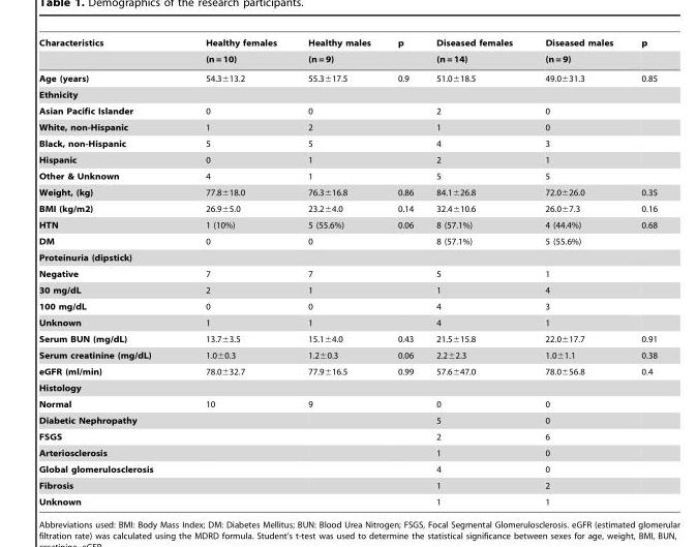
<table><thead><tr><td rowspan="2">Characteristics</td><td rowspan="2">Healthy females (n = 10)</td><td rowspan="2">Healthy males (n = 9)</td><td rowspan="2">p</td><td rowspan="2">Diseased females (n = 14)</td><td rowspan="2">Diseased males (n = 9)</td><td rowspan="2">p</td></tr><tr></tr></thead><tbody><tr><td>Age (years)</td><td>54.3±13.2</td><td>55.3±17.5</td><td>0.9</td><td>51.0±18.5</td><td>49.0±31.3</td><td>0.85</td></tr><tr><td colspan="7">Ethnicity</td></tr><tr><td>Asian Pacific Islander</td><td>0</td><td>0</td><td></td><td>2</td><td>0</td><td></td></tr><tr><td>White, non-Hispanic</td><td>1</td><td>2</td><td></td><td>1</td><td>0</td><td></td></tr><tr><td>Black, non-Hispanic</td><td>5</td><td>5</td><td></td><td>4</td><td>3</td><td></td></tr><tr><td>Hispanic</td><td>0</td><td>1</td><td></td><td>2</td><td>1</td><td></td></tr><tr><td>Other &amp; Unknown</td><td>4</td><td>1</td><td></td><td>5</td><td>5</td><td></td></tr><tr><td>Weight, (kg)</td><td>77.8±18.0</td><td>76.3±16.8</td><td>0.86</td><td>84.1±26.8</td><td>72.0±26.0</td><td>0.35</td></tr><tr><td>BMI (kg/m2)</td><td>26.9±5.0</td><td>23.2±4.0</td><td>0.14</td><td>32.4±10.6</td><td>26.0±7.3</td><td>0.16</td></tr><tr><td>HTN</td><td>1 (10%)</td><td>5 (55.6%)</td><td>0.06</td><td>8 (57.1%)</td><td>4 (44.4%)</td><td>0.68</td></tr><tr><td>DM</td><td>0</td><td>0</td><td></td><td>8 (57.1%)</td><td>5 (55.6%)</td><td></td></tr><tr><td colspan="7">Proteinuria (dipstick)</td></tr><tr><td>Negative</td><td>7</td><td>7</td><td></td><td>5</td><td>1</td><td></td></tr><tr><td>30 mg/dL</td><td>2</td><td>1</td><td></td><td>1</td><td>4</td><td></td></tr><tr><td>100 mg/dL</td><td>0</td><td>0</td><td></td><td>4</td><td>3</td><td></td></tr><tr><td>Unknown</td><td>1</td><td>1</td><td></td><td>4</td><td>1</td><td></td></tr><tr><td>Serum BUN (mg/dL)</td><td>13.7±3.5</td><td>15.1±4.0</td><td>0.43</td><td>21.5±15.8</td><td>22.0±17.7</td><td>0.91</td></tr><tr><td>Serum creatinine (mg/dL)</td><td>1.0±0.3</td><td>1.2±0.3</td><td>0.06</td><td>2.2±2.3</td><td>1.0±1.1</td><td>0.38</td></tr><tr><td>eGFR (ml/min)</td><td>78.0±32.7</td><td>77.9±16.5</td><td>0.99</td><td>57.6±47.0</td><td>78.0±56.8</td><td>0.4</td></tr><tr><td colspan="7">Histology</td></tr><tr><td>Normal</td><td>10</td><td>9</td><td></td><td>0</td><td>0</td><td></td></tr><tr><td>Diabetic Nephropathy</td><td></td><td></td><td></td><td>5</td><td>0</td><td></td></tr><tr><td>FSGS</td><td></td><td></td><td></td><td>2</td><td>6</td><td></td></tr><tr><td>Arteriosclerosis</td><td></td><td></td><td></td><td>1</td><td>0</td><td></td></tr><tr><td>Global glomerulosclerosis</td><td></td><td></td><td></td><td>4</td><td>0</td><td></td></tr><tr><td>Fibrosis</td><td></td><td></td><td></td><td>1</td><td>2</td><td></td></tr><tr><td>Unknown</td><td></td><td></td><td></td><td>1</td><td>1</td><td></td></tr></tbody></table>